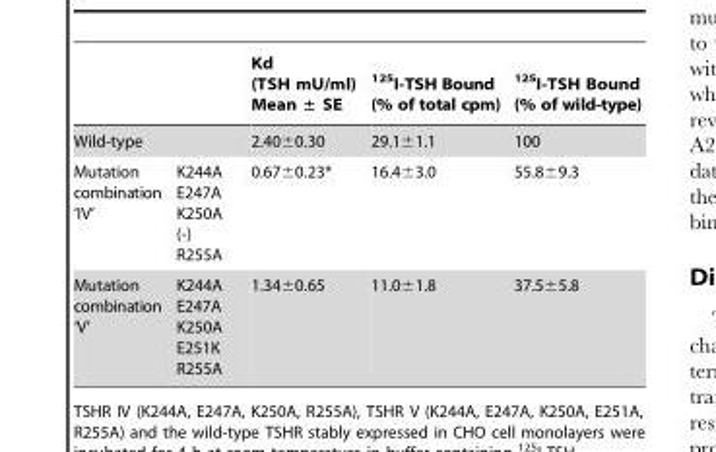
<table><thead><tr><td></td><td></td><td>(TSH mU/ml) Mean ± SE</td><td><sup>125</sup>I-TSH Bound (% of total cpm)</td><td><sup>125</sup>I-TSH Bound (% of wild-type)</td></tr></thead><tbody><tr><td>Wild-type</td><td></td><td>2.40±0.30</td><td>29.1±1.1</td><td>100</td></tr><tr><td>Mutation combination ‘IV’</td><td>K244A E247A K250A (-) R255A</td><td>0.67±0.23*</td><td>16.4±3.0</td><td>55.8±9.3</td></tr><tr><td>Mutation combination ‘V’</td><td>K244A E247A K250A E251K R255A</td><td>1.34±0.65</td><td>11.0±1.8</td><td>37.5±5.8</td></tr></tbody></table>